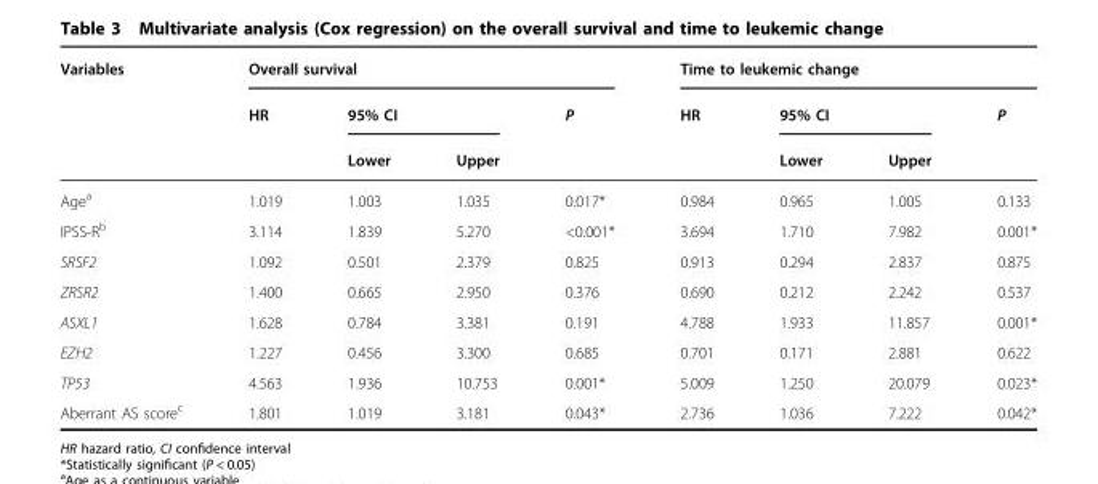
<table><thead><tr><td rowspan="3">Variables</td><td colspan="4">Overall survival</td><td colspan="4">Time to leukemic change</td></tr><tr><td rowspan="2">HR</td><td colspan="2">95% CI</td><td rowspan="2">P</td><td rowspan="2">HR</td><td colspan="2">95% CI</td><td rowspan="2">P</td></tr><tr><td>Lower</td><td>Upper</td><td>Lower</td><td>Upper</td></tr></thead><tbody><tr><td>Age<sup>a</sup></td><td>1.019</td><td>1.003</td><td>1.035</td><td>0.017*</td><td>0.984</td><td>0.965</td><td>1.005</td><td>0.133</td></tr><tr><td>IPSS-R<sup>b</sup></td><td>3.114</td><td>1.839</td><td>5.270</td><td>&lt;0.001*</td><td>3.694</td><td>1.710</td><td>7.982</td><td>0.001*</td></tr><tr><td>SRSF2</td><td>1.092</td><td>0.501</td><td>2.379</td><td>0.825</td><td>0.913</td><td>0.294</td><td>2.837</td><td>0.875</td></tr><tr><td>ZRSR2</td><td>1.400</td><td>0.665</td><td>2.950</td><td>0.376</td><td>0.690</td><td>0.212</td><td>2.242</td><td>0.537</td></tr><tr><td>ASXL1</td><td>1.628</td><td>0.784</td><td>3.381</td><td>0.191</td><td>4.788</td><td>1.933</td><td>11.857</td><td>0.001*</td></tr><tr><td>EZH2</td><td>1.227</td><td>0.456</td><td>3.300</td><td>0.685</td><td>0.701</td><td>0.171</td><td>2.881</td><td>0.622</td></tr><tr><td>TP53</td><td>4.563</td><td>1.936</td><td>10.753</td><td>0.001*</td><td>5.009</td><td>1.250</td><td>20.079</td><td>0.023*</td></tr><tr><td>Aberrant AS score<sup>c</sup></td><td>1.801</td><td>1.019</td><td>3.181</td><td>0.043*</td><td>2.736</td><td>1.036</td><td>7.222</td><td>0.042*</td></tr></tbody></table>